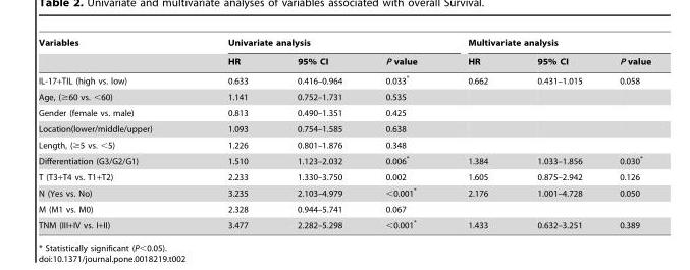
<table><thead><tr><td rowspan="2">Variables</td><td colspan="3">Univariate analysis</td><td colspan="3">Multivariate analysis</td></tr><tr><td>HR</td><td>95% CI</td><td>P value</td><td>HR</td><td>95% CI</td><td>P value</td></tr></thead><tbody><tr><td>IL-17+TIL (high vs. low)</td><td>0.633</td><td>0.416–0.964</td><td>0.033*</td><td>0.662</td><td>0.431–1.015</td><td>0.058</td></tr><tr><td>Age, (≥60 vs. &lt;60)</td><td>1.141</td><td>0.752–1.731</td><td>0.535</td><td></td><td></td><td></td></tr><tr><td>Gender (female vs. male)</td><td>0.813</td><td>0.490–1.351</td><td>0.425</td><td></td><td></td><td></td></tr><tr><td>Location(lower/middle/upper)</td><td>1.093</td><td>0.754–1.585</td><td>0.638</td><td></td><td></td><td></td></tr><tr><td>Length, (≥5 vs. &lt;5)</td><td>1.226</td><td>0.801–1.876</td><td>0.348</td><td></td><td></td><td></td></tr><tr><td>Differentiation (G3/G2/G1)</td><td>1.510</td><td>1.123–2.032</td><td>0.006*</td><td>1.384</td><td>1.033–1.856</td><td>0.030*</td></tr><tr><td>T (T3+T4 vs. T1+T2)</td><td>2.233</td><td>1.330–3.750</td><td>0.002</td><td>1.605</td><td>0.875–2.942</td><td>0.126</td></tr><tr><td>N (Yes vs. No)</td><td>3.235</td><td>2.103–4.979</td><td>&lt;0.001*</td><td>2.176</td><td>1.001–4.728</td><td>0.050</td></tr><tr><td>M (M1 vs. M0)</td><td>2.328</td><td>0.944–5.741</td><td>0.067</td><td></td><td></td><td></td></tr><tr><td>TNM (III+IV vs. I+II)</td><td>3.477</td><td>2.282–5.298</td><td>&lt;0.001*</td><td>1.433</td><td>0.632–3.251</td><td>0.389</td></tr></tbody></table>